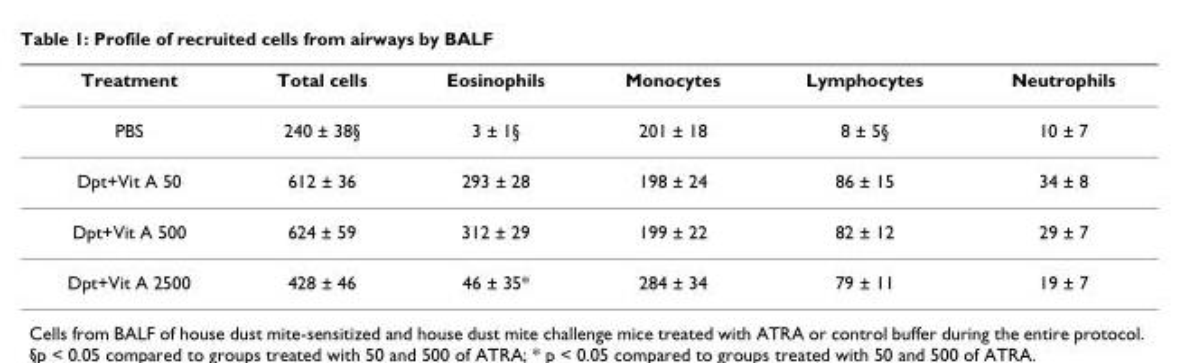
<table><thead><tr><td>Treatment</td><td>Total cells</td><td>Eosinophils</td><td>Monocytes</td><td>Lymphocytes</td><td>Neutrophils</td></tr></thead><tbody><tr><td>PBS</td><td>240 ± 38§</td><td>3 ± 1§</td><td>201 ± 18</td><td>8 ± 5§</td><td>10 ± 7</td></tr><tr><td>Dpt+Vit A 50</td><td>612 ± 36</td><td>293 ± 28</td><td>198 ± 24</td><td>86 ± 15</td><td>34 ± 8</td></tr><tr><td>Dpt+Vit A 500</td><td>624 ± 59</td><td>312 ± 29</td><td>199 ± 22</td><td>82 ± 12</td><td>29 ± 7</td></tr><tr><td>Dpt+Vit A 2500</td><td>428 ± 46</td><td>46 ± 35*</td><td>284 ± 34</td><td>79 ± 11</td><td>19 ± 7</td></tr></tbody></table>